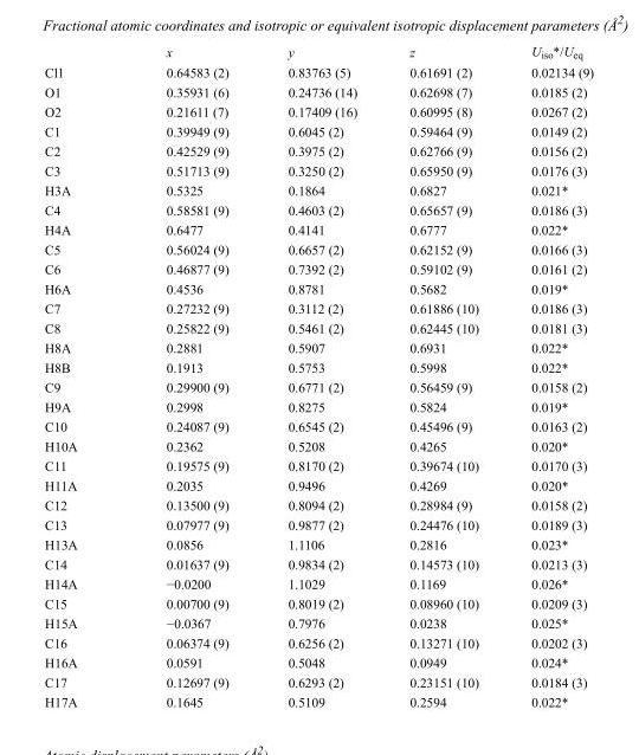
<table><thead><tr><td></td><td>x</td><td>y</td><td>z</td><td>U<sub>iso</sub>*/U<sub>eq</sub></td></tr></thead><tbody><tr><td>Cl1</td><td>0.64583 (2)</td><td>0.83763 (5)</td><td>0.61691 (2)</td><td>0.02134 (9)</td></tr><tr><td>O1</td><td>0.35931 (6)</td><td>0.24736 (14)</td><td>0.62698 (7)</td><td>0.0185 (2)</td></tr><tr><td>O2</td><td>0.21611 (7)</td><td>0.17409 (16)</td><td>0.60995 (8)</td><td>0.0267 (2)</td></tr><tr><td>C1</td><td>0.39949 (9)</td><td>0.6045 (2)</td><td>0.59464 (9)</td><td>0.0149 (2)</td></tr><tr><td>C2</td><td>0.42529 (9)</td><td>0.3975 (2)</td><td>0.62766 (9)</td><td>0.0156 (2)</td></tr><tr><td>C3</td><td>0.51713 (9)</td><td>0.3250 (2)</td><td>0.65950 (9)</td><td>0.0176 (3)</td></tr><tr><td>H3A</td><td>0.5325</td><td>0.1864</td><td>0.6827</td><td>0.021*</td></tr><tr><td>C4</td><td>0.58581 (9)</td><td>0.4603 (2)</td><td>0.65657 (9)</td><td>0.0186 (3)</td></tr><tr><td>H4A</td><td>0.6477</td><td>0.4141</td><td>0.6777</td><td>0.022*</td></tr><tr><td>C5</td><td>0.56024 (9)</td><td>0.6657 (2)</td><td>0.62152 (9)</td><td>0.0166 (3)</td></tr><tr><td>C6</td><td>0.46877 (9)</td><td>0.7392 (2)</td><td>0.59102 (9)</td><td>0.0161 (2)</td></tr><tr><td>H6A</td><td>0.4536</td><td>0.8781</td><td>0.5682</td><td>0.019*</td></tr><tr><td>C7</td><td>0.27232 (9)</td><td>0.3112 (2)</td><td>0.61886 (10)</td><td>0.0186 (3)</td></tr><tr><td>C8</td><td>0.25822 (9)</td><td>0.5461 (2)</td><td>0.62445 (10)</td><td>0.0181 (3)</td></tr><tr><td>H8A</td><td>0.2881</td><td>0.5907</td><td>0.6931</td><td>0.022*</td></tr><tr><td>H8B</td><td>0.1913</td><td>0.5753</td><td>0.5998</td><td>0.022*</td></tr><tr><td>C9</td><td>0.29900 (9)</td><td>0.6771 (2)</td><td>0.56459 (9)</td><td>0.0158 (2)</td></tr><tr><td>H9A</td><td>0.2998</td><td>0.8275</td><td>0.5824</td><td>0.019*</td></tr><tr><td>C10</td><td>0.24087 (9)</td><td>0.6545 (2)</td><td>0.45496 (9)</td><td>0.0163 (2)</td></tr><tr><td>H10A</td><td>0.2362</td><td>0.5208</td><td>0.4265</td><td>0.020*</td></tr><tr><td>C11</td><td>0.19575 (9)</td><td>0.8170 (2)</td><td>0.39674 (10)</td><td>0.0170 (3)</td></tr><tr><td>H11A</td><td>0.2035</td><td>0.9496</td><td>0.4269</td><td>0.020*</td></tr><tr><td>C12</td><td>0.13500 (9)</td><td>0.8094 (2)</td><td>0.28984 (9)</td><td>0.0158 (2)</td></tr><tr><td>C13</td><td>0.07977 (9)</td><td>0.9877 (2)</td><td>0.24476 (10)</td><td>0.0189 (3)</td></tr><tr><td>H13A</td><td>0.0856</td><td>1.1106</td><td>0.2816</td><td>0.023*</td></tr><tr><td>C14</td><td>0.01637 (9)</td><td>0.9834 (2)</td><td>0.14573 (10)</td><td>0.0213 (3)</td></tr><tr><td>H14A</td><td>−0.0200</td><td>1.1029</td><td>0.1169</td><td>0.026*</td></tr><tr><td>C15</td><td>0.00700 (9)</td><td>0.8019 (2)</td><td>0.08960 (10)</td><td>0.0209 (3)</td></tr><tr><td>H15A</td><td>−0.0367</td><td>0.7976</td><td>0.0238</td><td>0.025*</td></tr><tr><td>C16</td><td>0.06374 (9)</td><td>0.6256 (2)</td><td>0.13271 (10)</td><td>0.0202 (3)</td></tr><tr><td>H16A</td><td>0.0591</td><td>0.5048</td><td>0.0949</td><td>0.024*</td></tr><tr><td>C17</td><td>0.12697 (9)</td><td>0.6293 (2)</td><td>0.23151 (10)</td><td>0.0184 (3)</td></tr><tr><td>H17A</td><td>0.1645</td><td>0.5109</td><td>0.2594</td><td>0.022*</td></tr></tbody></table>